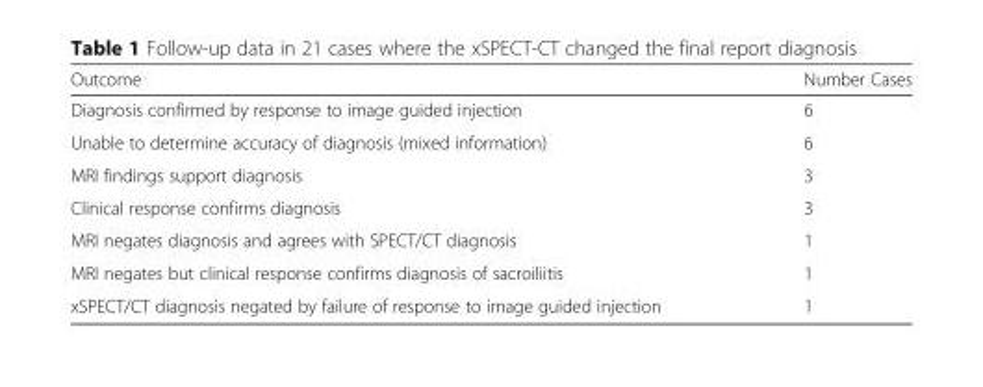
<table><thead><tr><td>Outcome</td><td>Number Cases</td></tr></thead><tbody><tr><td>Diagnosis confirmed by response to image guided injection</td><td>6</td></tr><tr><td>Unable to determine accuracy of diagnosis (mixed information)</td><td>6</td></tr><tr><td>MRI findings support diagnosis</td><td>3</td></tr><tr><td>Clinical response confirms diagnosis</td><td>3</td></tr><tr><td>MRI negates diagnosis and agrees with SPECT/CT diagnosis</td><td>1</td></tr><tr><td>MRI negates but clinical response confirms diagnosis of sacroiliitis</td><td>1</td></tr><tr><td>xSPECT/CT diagnosis negated by failure of response to image guided injection</td><td>1</td></tr></tbody></table>